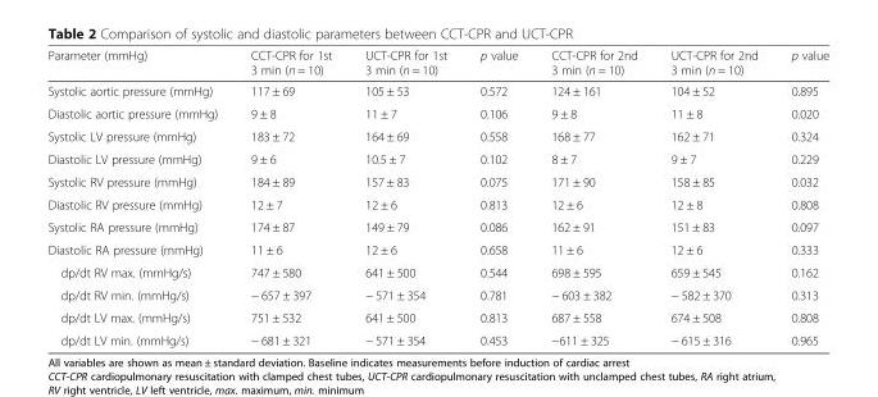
<table><thead><tr><td>Parameter (mmHg)</td><td>CCT-CPR for 1st 3 min (n = 10)</td><td>UCT-CPR for 1st 3 min (n = 10)</td><td>p value</td><td>CCT-CPR for 2nd 3 min (n = 10)</td><td>UCT-CPR for 2nd 3 min (n = 10)</td><td>p value</td></tr></thead><tbody><tr><td>Systolic aortic pressure (mmHg)</td><td>117 ± 69</td><td>105 ± 53</td><td>0.572</td><td>124 ± 161</td><td>104 ± 52</td><td>0.895</td></tr><tr><td>Diastolic aortic pressure (mmHg)</td><td>9 ± 8</td><td>11 ± 7</td><td>0.106</td><td>9 ± 8</td><td>11 ± 8</td><td>0.020</td></tr><tr><td>Systolic LV pressure (mmHg)</td><td>183 ± 72</td><td>164 ± 69</td><td>0.558</td><td>168 ± 77</td><td>162 ± 71</td><td>0.324</td></tr><tr><td>Diastolic LV pressure (mmHg)</td><td>9 ± 6</td><td>10.5 ± 7</td><td>0.102</td><td>8 ± 7</td><td>9 ± 7</td><td>0.229</td></tr><tr><td>Systolic RV pressure (mmHg)</td><td>184 ± 89</td><td>157 ± 83</td><td>0.075</td><td>171 ± 90</td><td>158 ± 85</td><td>0.032</td></tr><tr><td>Diastolic RV pressure (mmHg)</td><td>12 ± 7</td><td>12 ± 6</td><td>0.813</td><td>12 ± 6</td><td>12 ± 8</td><td>0.808</td></tr><tr><td>Systolic RA pressure (mmHg)</td><td>174 ± 87</td><td>149 ± 79</td><td>0.086</td><td>162 ± 91</td><td>151 ± 83</td><td>0.097</td></tr><tr><td>Diastolic RA pressure (mmHg)</td><td>11 ± 6</td><td>12 ± 6</td><td>0.658</td><td>11 ± 6</td><td>12 ± 6</td><td>0.333</td></tr><tr><td>dp/dt RV max. (mmHg/s)</td><td>747 ± 580</td><td>641 ± 500</td><td>0.544</td><td>698 ± 595</td><td>659 ± 545</td><td>0.162</td></tr><tr><td>dp/dt RV min. (mmHg/s)</td><td>− 657 ± 397</td><td>− 571 ± 354</td><td>0.781</td><td>− 603 ± 382</td><td>− 582 ± 370</td><td>0.313</td></tr><tr><td>dp/dt LV max. (mmHg/s)</td><td>751 ± 532</td><td>641 ± 500</td><td>0.813</td><td>687 ± 558</td><td>674 ± 508</td><td>0.808</td></tr><tr><td>dp/dt LV min. (mmHg/s)</td><td>− 681 ± 321</td><td>− 571 ± 354</td><td>0.453</td><td>−611 ± 325</td><td>− 615 ± 316</td><td>0.965</td></tr></tbody></table>